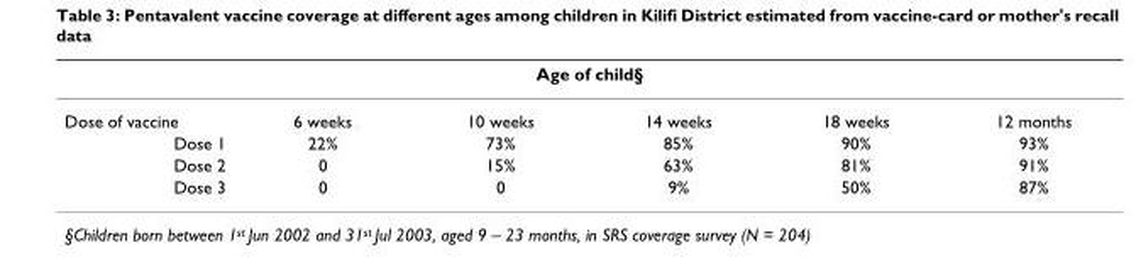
<table><thead><tr><td colspan="6">Age of child§</td></tr><tr><td>Dose of vaccine</td><td>6 weeks</td><td>10 weeks</td><td>14 weeks</td><td>18 weeks</td><td>12 months</td></tr></thead><tbody><tr><td>Dose 1</td><td>22%</td><td>73%</td><td>85%</td><td>90%</td><td>93%</td></tr><tr><td>Dose 2</td><td>0</td><td>15%</td><td>63%</td><td>81%</td><td>91%</td></tr><tr><td>Dose 3</td><td>0</td><td>0</td><td>9%</td><td>50%</td><td>87%</td></tr></tbody></table>